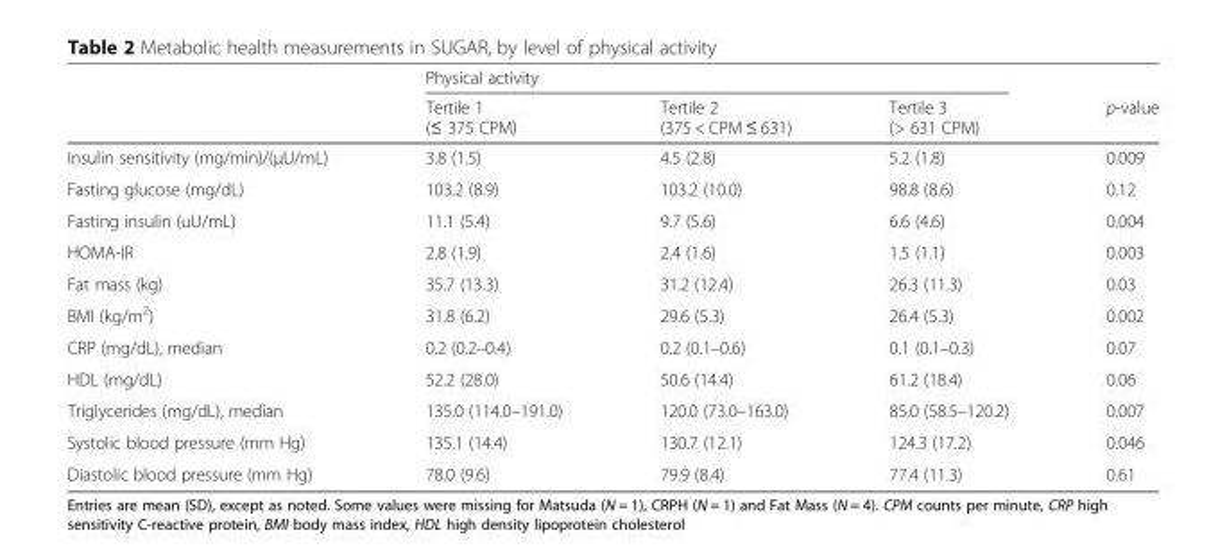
<table><thead><tr><td rowspan="2"></td><td colspan="3">Physical activity</td><td rowspan="2">p-value</td></tr><tr><td>Tertile 1 (≤ 375 CPM)</td><td>Tertile 2 (375 &lt; CPM ≤ 631)</td><td>Tertile 3 (&gt; 631 CPM)</td></tr></thead><tbody><tr><td>Insulin sensitivity (mg/min)/(μU/mL)</td><td>3.8 (1.5)</td><td>4.5 (2.8)</td><td>5.2 (1.8)</td><td>0.009</td></tr><tr><td>Fasting glucose (mg/dL)</td><td>103.2 (8.9)</td><td>103.2 (10.0)</td><td>98.8 (8.6)</td><td>0.12</td></tr><tr><td>Fasting insulin (uU/mL)</td><td>11.1 (5.4)</td><td>9.7 (5.6)</td><td>6.6 (4.6)</td><td>0.004</td></tr><tr><td>HOMA-IR</td><td>2.8 (1.9)</td><td>2.4 (1.6)</td><td>1.5 (1.1)</td><td>0.003</td></tr><tr><td>Fat mass (kg)</td><td>35.7 (13.3)</td><td>31.2 (12.4)</td><td>26.3 (11.3)</td><td>0.03</td></tr><tr><td>BMI (kg/m<sup>2</sup>)</td><td>31.8 (6.2)</td><td>29.6 (5.3)</td><td>26.4 (5.3)</td><td>0.002</td></tr><tr><td>CRP (mg/dL), median</td><td>0.2 (0.2–0.4)</td><td>0.2 (0.1–0.6)</td><td>0.1 (0.1–0.3)</td><td>0.07</td></tr><tr><td>HDL (mg/dL)</td><td>52.2 (28.0)</td><td>50.6 (14.4)</td><td>61.2 (18.4)</td><td>0.06</td></tr><tr><td>Triglycerides (mg/dL), median</td><td>135.0 (114.0–191.0)</td><td>120.0 (73.0–163.0)</td><td>85.0 (58.5–120.2)</td><td>0.007</td></tr><tr><td>Systolic blood pressure (mm Hg)</td><td>135.1 (14.4)</td><td>130.7 (12.1)</td><td>124.3 (17.2)</td><td>0.046</td></tr><tr><td>Diastolic blood pressure (mm Hg)</td><td>78.0 (9.6)</td><td>79.9 (8.4)</td><td>77.4 (11.3)</td><td>0.61</td></tr></tbody></table>